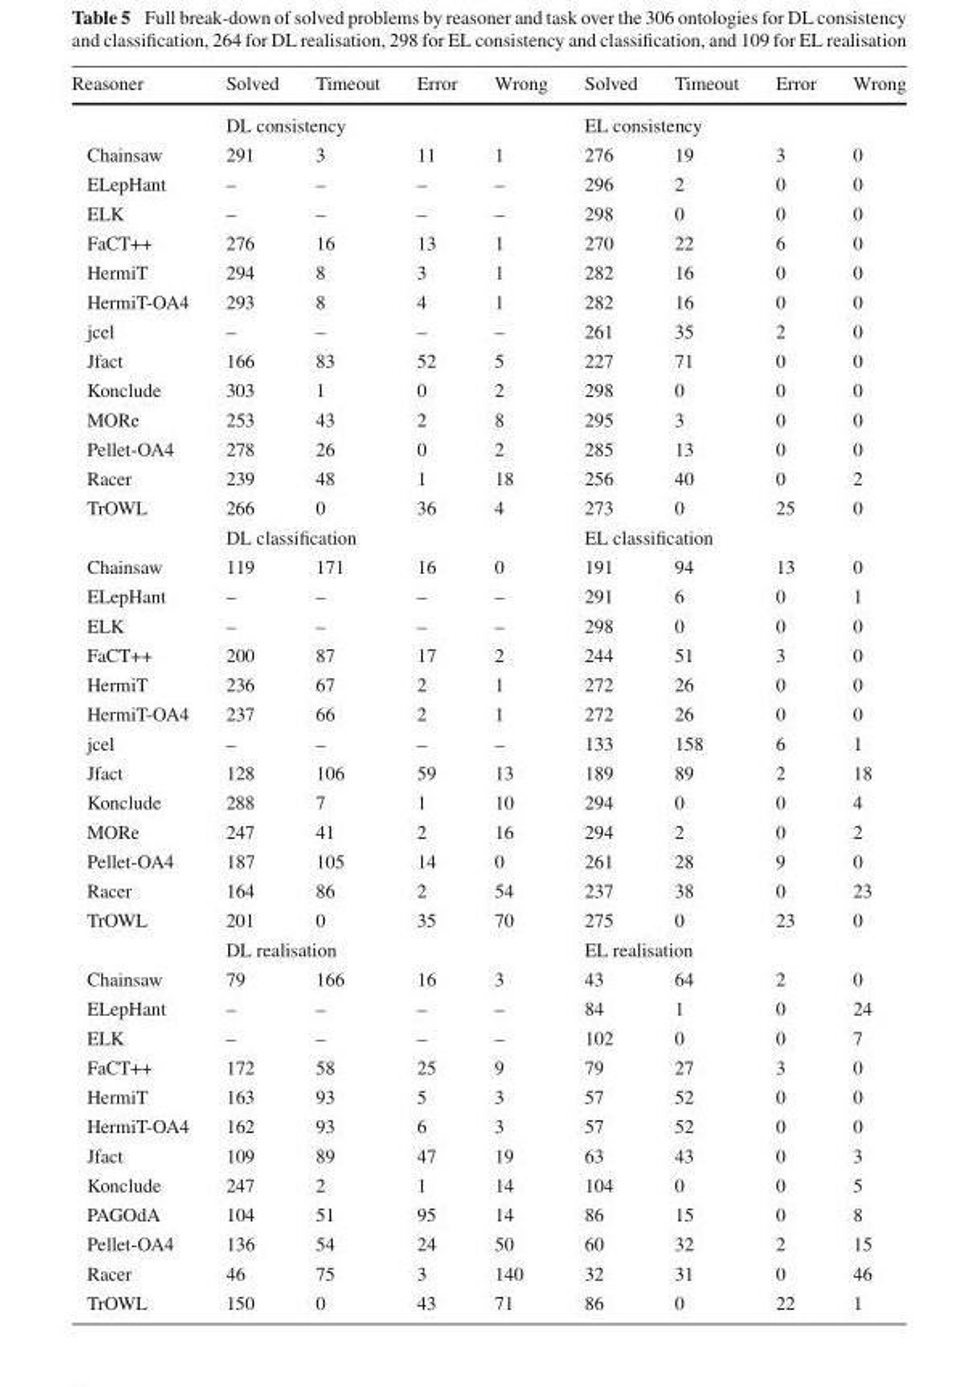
<table><thead><tr><td>Reasoner</td><td>Solved</td><td>Timeout</td><td>Error</td><td>Wrong</td><td>Solved</td><td>Timeout</td><td>Error</td><td>Wrong</td></tr></thead><tbody><tr><td></td><td colspan="4">DL consistency</td><td colspan="4">EL consistency</td></tr><tr><td>Chainsaw</td><td>291</td><td>3</td><td>11</td><td>1</td><td>276</td><td>19</td><td>3</td><td>0</td></tr><tr><td>ELepHant</td><td>–</td><td>–</td><td>–</td><td>–</td><td>296</td><td>2</td><td>0</td><td>0</td></tr><tr><td>ELK</td><td>–</td><td>–</td><td>–</td><td>–</td><td>298</td><td>0</td><td>0</td><td>0</td></tr><tr><td>FaCT++</td><td>276</td><td>16</td><td>13</td><td>1</td><td>270</td><td>22</td><td>6</td><td>0</td></tr><tr><td>HermiT</td><td>294</td><td>8</td><td>3</td><td>1</td><td>282</td><td>16</td><td>0</td><td>0</td></tr><tr><td>HermiT-OA4</td><td>293</td><td>8</td><td>4</td><td>1</td><td>282</td><td>16</td><td>0</td><td>0</td></tr><tr><td>jcel</td><td>–</td><td>–</td><td>–</td><td>–</td><td>261</td><td>35</td><td>2</td><td>0</td></tr><tr><td>Jfact</td><td>166</td><td>83</td><td>52</td><td>5</td><td>227</td><td>71</td><td>0</td><td>0</td></tr><tr><td>Konclude</td><td>303</td><td>1</td><td>0</td><td>2</td><td>298</td><td>0</td><td>0</td><td>0</td></tr><tr><td>MORe</td><td>253</td><td>43</td><td>2</td><td>8</td><td>295</td><td>3</td><td>0</td><td>0</td></tr><tr><td>Pellet-OA4</td><td>278</td><td>26</td><td>0</td><td>2</td><td>285</td><td>13</td><td>0</td><td>0</td></tr><tr><td>Racer</td><td>239</td><td>48</td><td>1</td><td>18</td><td>256</td><td>40</td><td>0</td><td>2</td></tr><tr><td rowspan="2">TrOWL</td><td>266</td><td>0</td><td>36</td><td>4</td><td>273</td><td>0</td><td>25</td><td>0</td></tr><tr><td colspan="4">DL classification</td><td colspan="4">EL classification</td></tr><tr><td>Chainsaw</td><td>119</td><td>171</td><td>16</td><td>0</td><td>191</td><td>94</td><td>13</td><td>0</td></tr><tr><td>ELepHant</td><td>–</td><td>–</td><td>–</td><td>–</td><td>291</td><td>6</td><td>0</td><td>1</td></tr><tr><td>ELK</td><td>–</td><td>–</td><td>–</td><td>–</td><td>298</td><td>0</td><td>0</td><td>0</td></tr><tr><td>FaCT++</td><td>200</td><td>87</td><td>17</td><td>2</td><td>244</td><td>51</td><td>3</td><td>0</td></tr><tr><td>HermiT</td><td>236</td><td>67</td><td>2</td><td>1</td><td>272</td><td>26</td><td>0</td><td>0</td></tr><tr><td>HermiT-OA4</td><td>237</td><td>66</td><td>2</td><td>1</td><td>272</td><td>26</td><td>0</td><td>0</td></tr><tr><td>jcel</td><td>–</td><td>–</td><td>–</td><td>–</td><td>133</td><td>158</td><td>6</td><td>1</td></tr><tr><td>Jfact</td><td>128</td><td>106</td><td>59</td><td>13</td><td>189</td><td>89</td><td>2</td><td>18</td></tr><tr><td>Konclude</td><td>288</td><td>7</td><td>1</td><td>10</td><td>294</td><td>0</td><td>0</td><td>4</td></tr><tr><td>MORe</td><td>247</td><td>41</td><td>2</td><td>16</td><td>294</td><td>2</td><td>0</td><td>2</td></tr><tr><td>Pellet-OA4</td><td>187</td><td>105</td><td>14</td><td>0</td><td>261</td><td>28</td><td>9</td><td>0</td></tr><tr><td>Racer</td><td>164</td><td>86</td><td>2</td><td>54</td><td>237</td><td>38</td><td>0</td><td>23</td></tr><tr><td rowspan="2">TrOWL</td><td>201</td><td>0</td><td>35</td><td>70</td><td>275</td><td>0</td><td>23</td><td>0</td></tr><tr><td colspan="4">DL realisation</td><td colspan="4">EL realisation</td></tr><tr><td>Chainsaw</td><td>79</td><td>166</td><td>16</td><td>3</td><td>43</td><td>64</td><td>2</td><td>0</td></tr><tr><td>ELepHant</td><td>–</td><td>–</td><td>–</td><td>–</td><td>84</td><td>1</td><td>0</td><td>24</td></tr><tr><td>ELK</td><td>–</td><td>–</td><td>–</td><td>–</td><td>102</td><td>0</td><td>0</td><td>7</td></tr><tr><td>FaCT++</td><td>172</td><td>58</td><td>25</td><td>9</td><td>79</td><td>27</td><td>3</td><td>0</td></tr><tr><td>HermiT</td><td>163</td><td>93</td><td>5</td><td>3</td><td>57</td><td>52</td><td>0</td><td>0</td></tr><tr><td>HermiT-OA4</td><td>162</td><td>93</td><td>6</td><td>3</td><td>57</td><td>52</td><td>0</td><td>0</td></tr><tr><td>Jfact</td><td>109</td><td>89</td><td>47</td><td>19</td><td>63</td><td>43</td><td>0</td><td>3</td></tr><tr><td>Konclude</td><td>247</td><td>2</td><td>1</td><td>14</td><td>104</td><td>0</td><td>0</td><td>5</td></tr><tr><td>PAGOdA</td><td>104</td><td>51</td><td>95</td><td>14</td><td>86</td><td>15</td><td>0</td><td>8</td></tr><tr><td>Pellet-OA4</td><td>136</td><td>54</td><td>24</td><td>50</td><td>60</td><td>32</td><td>2</td><td>15</td></tr><tr><td>Racer</td><td>46</td><td>75</td><td>3</td><td>140</td><td>32</td><td>31</td><td>0</td><td>46</td></tr><tr><td>TrOWL</td><td>150</td><td>0</td><td>43</td><td>71</td><td>86</td><td>0</td><td>22</td><td>1</td></tr></tbody></table>